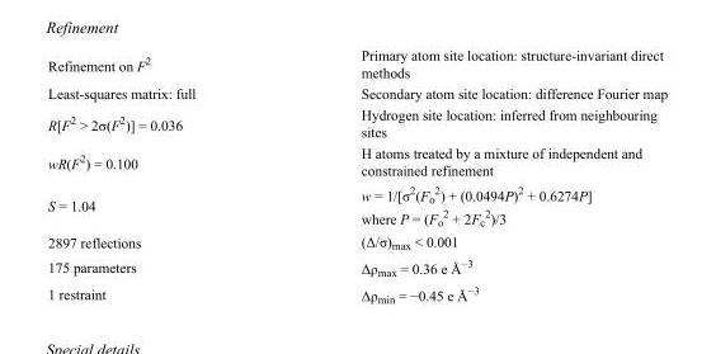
<table><tbody><tr><td>Refinement on F<sup>2</sup></td><td>Primary atom site location: structure-invariant direct methods</td></tr><tr><td>Least-squares matrix: full</td><td>Secondary atom site location: difference Fourier map</td></tr><tr><td>R[F<sup>2</sup> &gt; 2σ(F<sup>2</sup>)] = 0.036</td><td>Hydrogen site location: inferred from neighbouring sites</td></tr><tr><td>wR(F<sup>2</sup>) = 0.100</td><td>H atoms treated by a mixture of independent and constrained refinement</td></tr><tr><td>S = 1.04</td><td>w = 1/[σ<sup>2</sup>(F<sub>o</sub> <sup>2</sup>) + (0.0494P)<sup>2</sup> + 0.6274P] where P = (F<sub>o</sub> <sup>2</sup> + 2F<sub>c</sub> <sup>2</sup>)/3</td></tr><tr><td>2897 reflections</td><td>(Δ/σ)<sub>max</sub> &lt; 0.001</td></tr><tr><td>175 parameters</td><td>Δρ<sub>max</sub> = 0.36 e Å<sup>−3</sup></td></tr><tr><td>1 restraint</td><td>Δρ<sub>min</sub> = −0.45 e Å<sup>−3</sup></td></tr></tbody></table>